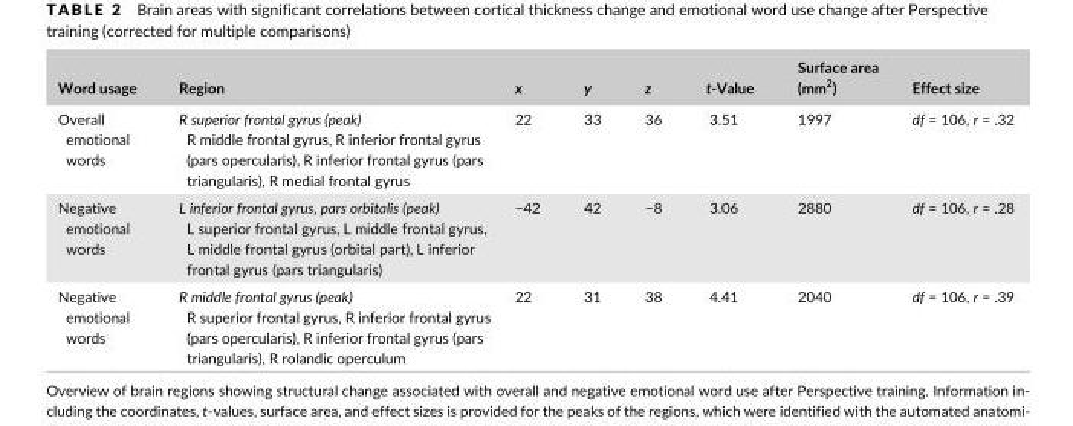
<table><thead><tr><td>Word usage</td><td>Region</td><td>x</td><td>y</td><td>z</td><td>t- Value</td><td>Surface area (mm<sup>2</sup>)</td><td>Effect size</td></tr></thead><tbody><tr><td>Overall emotional words</td><td>R superior frontal gyrus (peak) R middle frontal gyrus, R inferior frontal gyrus (pars opercularis), R inferior frontal gyrus (pars triangularis), R medial frontal gyrus</td><td>22</td><td>33</td><td>36</td><td>3.51</td><td>1997</td><td>df = 106, r = .32</td></tr><tr><td>Negative emotional words</td><td>L inferior frontal gyrus, pars orbitalis (peak) L superior frontal gyrus, L middle frontal gyrus, L middle frontal gyrus (orbital part), L inferior frontal gyrus (pars triangularis)</td><td>−42</td><td>42</td><td>−8</td><td>3.06</td><td>2880</td><td>df = 106, r = .28</td></tr><tr><td>Negative emotional words</td><td>R middle frontal gyrus (peak) R superior frontal gyrus, R inferior frontal gyrus (pars opercularis), R inferior frontal gyrus (pars triangularis), R rolandic operculum</td><td>22</td><td>31</td><td>38</td><td>4.41</td><td>2040</td><td>df = 106, r = .39</td></tr></tbody></table>